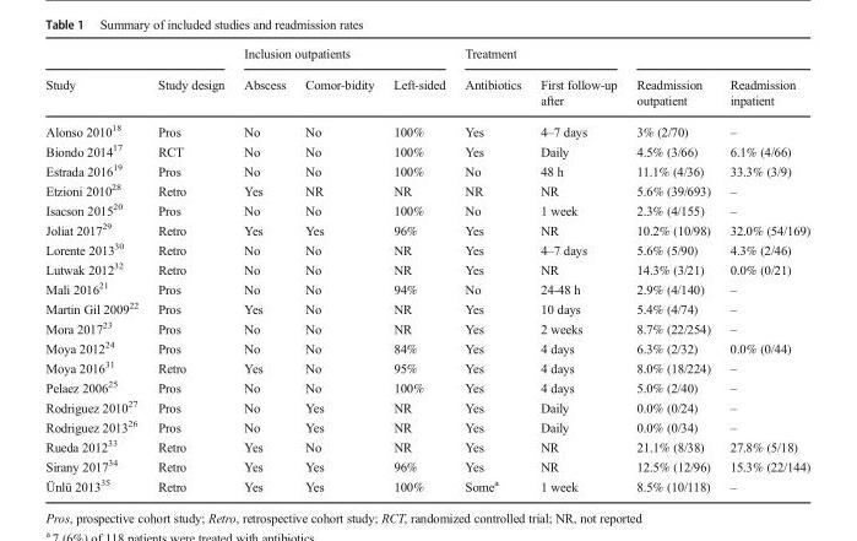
<table><thead><tr><td rowspan="2">Study</td><td rowspan="2">Study design</td><td colspan="3">Inclusion outpatients</td><td colspan="2">Treatment</td><td rowspan="2">Readmission outpatient</td><td rowspan="2">Readmission inpatient</td></tr><tr><td>Abscess</td><td>Comor-bidity</td><td>Left-sided</td><td>Antibiotics</td><td>First follow-up after</td></tr></thead><tbody><tr><td>Alonso 2010<sup>18</sup></td><td>Pros</td><td>No</td><td>No</td><td>100%</td><td>Yes</td><td>4–7 days</td><td>3% (2/70)</td><td>–</td></tr><tr><td>Biondo 2014<sup>17</sup></td><td>RCT</td><td>No</td><td>No</td><td>100%</td><td>Yes</td><td>Daily</td><td>4.5% (3/66)</td><td>6.1% (4/66)</td></tr><tr><td>Estrada 2016<sup>19</sup></td><td>Pros</td><td>No</td><td>No</td><td>100%</td><td>No</td><td>48 h</td><td>11.1% (4/36)</td><td>33.3% (3/9)</td></tr><tr><td>Etzioni 2010<sup>28</sup></td><td>Retro</td><td>Yes</td><td>NR</td><td>NR</td><td>NR</td><td>NR</td><td>5.6% (39/693)</td><td>–</td></tr><tr><td>Isacson 2015<sup>20</sup></td><td>Pros</td><td>No</td><td>No</td><td>100%</td><td>No</td><td>1 week</td><td>2.3% (4/155)</td><td>–</td></tr><tr><td>Joliat 2017<sup>29</sup></td><td>Retro</td><td>Yes</td><td>Yes</td><td>96%</td><td>Yes</td><td>NR</td><td>10.2% (10/98)</td><td>32.0% (54/169)</td></tr><tr><td>Lorente 2013<sup>30</sup></td><td>Retro</td><td>No</td><td>No</td><td>NR</td><td>Yes</td><td>4–7 days</td><td>5.6% (5/90)</td><td>4.3% (2/46)</td></tr><tr><td>Lutwak 2012<sup>32</sup></td><td>Retro</td><td>No</td><td>No</td><td>NR</td><td>Yes</td><td>NR</td><td>14.3% (3/21)</td><td>0.0% (0/21)</td></tr><tr><td>Mali 2016<sup>21</sup></td><td>Pros</td><td>No</td><td>No</td><td>94%</td><td>No</td><td>24-48 h</td><td>2.9% (4/140)</td><td>–</td></tr><tr><td>Martin Gil 2009<sup>22</sup></td><td>Pros</td><td>Yes</td><td>No</td><td>NR</td><td>Yes</td><td>10 days</td><td>5.4% (4/74)</td><td>–</td></tr><tr><td>Mora 2017<sup>23</sup></td><td>Pros</td><td>No</td><td>No</td><td>NR</td><td>Yes</td><td>2 weeks</td><td>8.7% (22/254)</td><td>–</td></tr><tr><td>Moya 2012<sup>24</sup></td><td>Pros</td><td>No</td><td>No</td><td>84%</td><td>Yes</td><td>4 days</td><td>6.3% (2/32)</td><td>0.0% (0/44)</td></tr><tr><td>Moya 2016<sup>31</sup></td><td>Retro</td><td>Yes</td><td>No</td><td>95%</td><td>Yes</td><td>4 days</td><td>8.0% (18/224)</td><td>–</td></tr><tr><td>Pelaez 2006<sup>25</sup></td><td>Pros</td><td>No</td><td>No</td><td>100%</td><td>Yes</td><td>4 days</td><td>5.0% (2/40)</td><td>–</td></tr><tr><td>Rodriguez 2010<sup>27</sup></td><td>Pros</td><td>No</td><td>Yes</td><td>NR</td><td>Yes</td><td>Daily</td><td>0.0% (0/24)</td><td>–</td></tr><tr><td>Rodriguez 2013<sup>26</sup></td><td>Pros</td><td>No</td><td>Yes</td><td>NR</td><td>Yes</td><td>Daily</td><td>0.0% (0/34)</td><td>–</td></tr><tr><td>Rueda 2012<sup>33</sup></td><td>Retro</td><td>Yes</td><td>No</td><td>NR</td><td>Yes</td><td>NR</td><td>21.1% (8/38)</td><td>27.8% (5/18)</td></tr><tr><td>Sirany 2017<sup>34</sup></td><td>Retro</td><td>Yes</td><td>Yes</td><td>96%</td><td>Yes</td><td>NR</td><td>12.5% (12/96)</td><td>15.3% (22/144)</td></tr><tr><td>Ünlü 2013<sup>35</sup></td><td>Retro</td><td>Yes</td><td>Yes</td><td>100%</td><td>Some<sup>a</sup></td><td>1 week</td><td>8.5% (10/118)</td><td>–</td></tr></tbody></table>